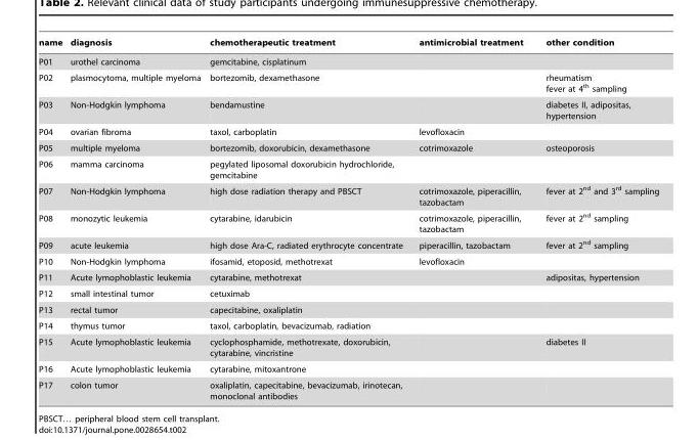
<table><thead><tr><td>name</td><td>diagnosis</td><td>chemotherapeutic treatment</td><td>antimicrobial treatment</td><td>other condition</td></tr></thead><tbody><tr><td>P01</td><td>urothel carcinoma</td><td>gemcitabine, cisplatinum</td><td></td><td></td></tr><tr><td>P02</td><td>plasmocytoma, multiple myeloma</td><td>bortezomib, dexamethasone</td><td></td><td>rheumatism fever at 4<sup>th</sup> sampling</td></tr><tr><td>P03</td><td>Non-Hodgkin lymphoma</td><td>bendamustine</td><td></td><td>diabetes II, adipositas, hypertension</td></tr><tr><td>P04</td><td>ovarian fibroma</td><td>taxol, carboplatin</td><td>levofloxacin</td><td></td></tr><tr><td>P05</td><td>multiple myeloma</td><td>bortezomib, doxorubicin, dexamethasone</td><td>cotrimoxazole</td><td>osteoporosis</td></tr><tr><td>P06</td><td>mamma carcinoma</td><td>pegylated liposomal doxorubicin hydrochloride, gemcitabine</td><td></td><td></td></tr><tr><td>P07</td><td>Non-Hodgkin lymphoma</td><td>high dose radiation therapy and PBSCT</td><td>cotrimoxazole, piperacillin, tazobactam</td><td>fever at 2<sup>nd</sup> and 3<sup>rd</sup> sampling</td></tr><tr><td>P08</td><td>monozytic leukemia</td><td>cytarabine, idarubicin</td><td>cotrimoxazole, piperacillin, tazobactam</td><td>fever at 2<sup>nd</sup> sampling</td></tr><tr><td>P09</td><td>acute leukemia</td><td>high dose Ara-C, radiated erythrocyte concentrate</td><td>piperacillin, tazobactam</td><td>fever at 2<sup>nd</sup> sampling</td></tr><tr><td>P10</td><td>Non-Hodgkin lymphoma</td><td>ifosamid, etoposid, methotrexat</td><td>levofloxacin</td><td></td></tr><tr><td>P11</td><td>Acute lymophoblastic leukemia</td><td>cytarabine, methotrexat</td><td></td><td>adipositas, hypertension</td></tr><tr><td>P12</td><td>small intestinal tumor</td><td>cetuximab</td><td></td><td></td></tr><tr><td>P13</td><td>rectal tumor</td><td>capecitabine, oxaliplatin</td><td></td><td></td></tr><tr><td>P14</td><td>thymus tumor</td><td>taxol, carboplatin, bevacizumab, radiation</td><td></td><td></td></tr><tr><td>P15</td><td>Acute lymophoblastic leukemia</td><td>cyclophosphamide, methotrexate, doxorubicin, cytarabine, vincristine</td><td></td><td>diabetes II</td></tr><tr><td>P16</td><td>Acute lymophoblastic leukemia</td><td>cytarabine, mitoxantrone</td><td></td><td></td></tr><tr><td>P17</td><td>colon tumor</td><td>oxaliplatin, capecitabine, bevacizumab, irinotecan, monoclonal antibodies</td><td></td><td></td></tr></tbody></table>